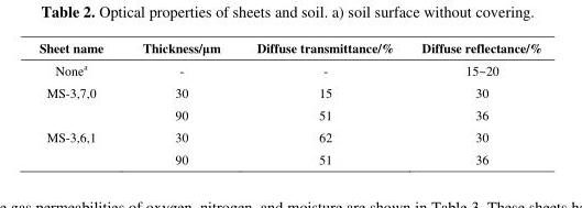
<table><thead><tr><td>Sheet name</td><td>Thickness/μm</td><td>Diffuse transmittance/%</td><td>Diffuse reflectance/%</td></tr></thead><tbody><tr><td>None<sup>a</sup></td><td>-</td><td>-</td><td>15~20</td></tr><tr><td rowspan="2">MS-3,7,0</td><td>30</td><td>15</td><td>30</td></tr><tr><td>90</td><td>51</td><td>36</td></tr><tr><td rowspan="2">MS-3,6,1</td><td>30</td><td>62</td><td>30</td></tr><tr><td>90</td><td>51</td><td>36</td></tr></tbody></table>